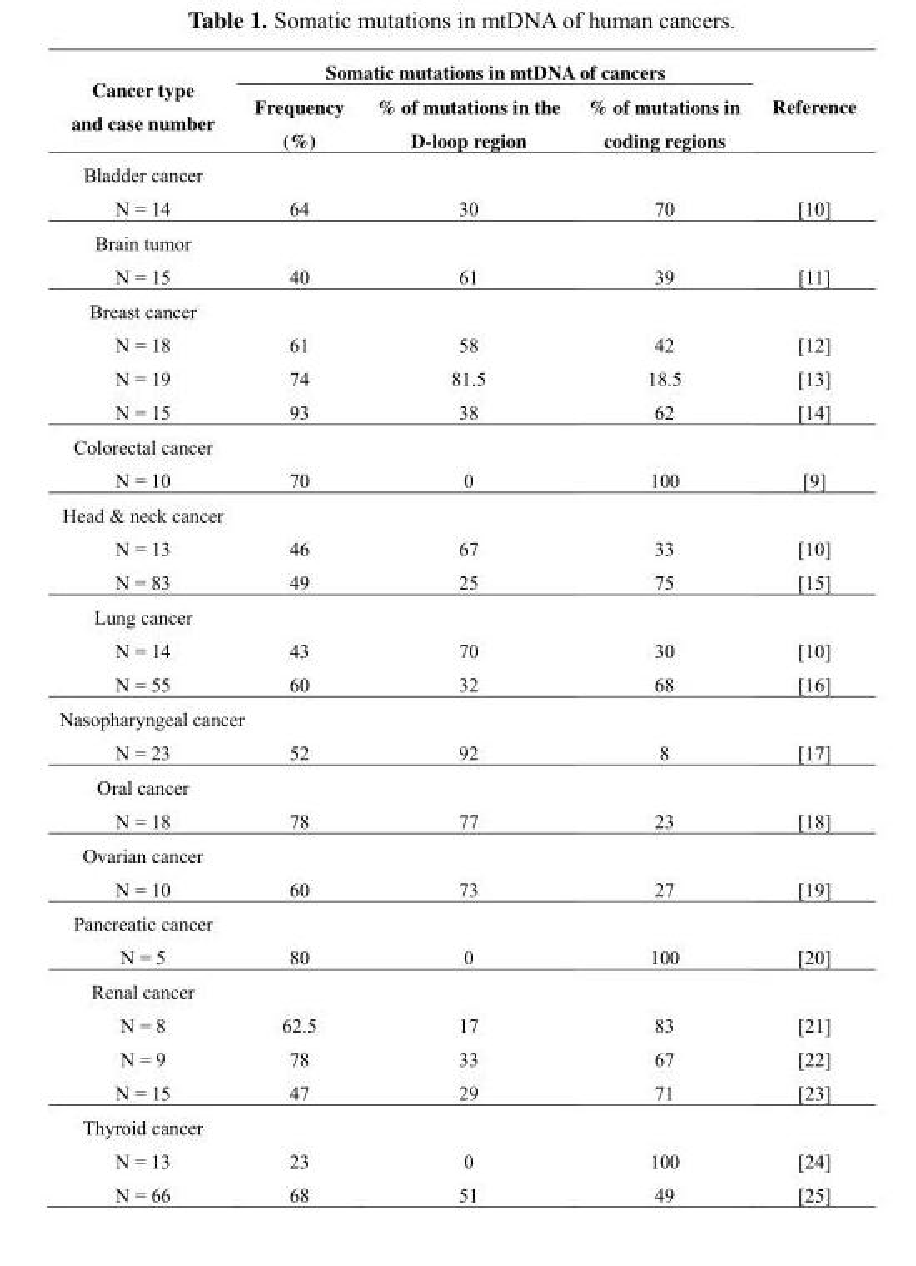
<table><thead><tr><td rowspan="2">Cancer type and case number</td><td colspan="3">Somatic mutations in mtDNA of cancers</td><td rowspan="2">Reference</td></tr><tr><td>Frequency (%)</td><td>% of mutations in the D-loop region</td><td>% of mutations in coding regions</td></tr></thead><tbody><tr><td colspan="5">Bladder cancer</td></tr><tr><td>N = 14</td><td>64</td><td>30</td><td>70</td><td>[10]</td></tr><tr><td colspan="5">Brain tumor</td></tr><tr><td>N = 15</td><td>40</td><td>61</td><td>39</td><td>[11]</td></tr><tr><td colspan="5">Breast cancer</td></tr><tr><td>N = 18</td><td>61</td><td>58</td><td>42</td><td>[12]</td></tr><tr><td>N = 19</td><td>74</td><td>81.5</td><td>18.5</td><td>[13]</td></tr><tr><td>N = 15</td><td>93</td><td>38</td><td>62</td><td>[14]</td></tr><tr><td colspan="5">Colorectal cancer</td></tr><tr><td>N = 10</td><td>70</td><td>0</td><td>100</td><td>[9]</td></tr><tr><td colspan="5">Head &amp; neck cancer</td></tr><tr><td>N = 13</td><td>46</td><td>67</td><td>33</td><td>[10]</td></tr><tr><td>N = 83</td><td>49</td><td>25</td><td>75</td><td>[15]</td></tr><tr><td colspan="5">Lung cancer</td></tr><tr><td>N = 14</td><td>43</td><td>70</td><td>30</td><td>[10]</td></tr><tr><td>N = 55</td><td>60</td><td>32</td><td>68</td><td>[16]</td></tr><tr><td colspan="5">Nasopharyngeal cancer</td></tr><tr><td>N = 23</td><td>52</td><td>92</td><td>8</td><td>[17]</td></tr><tr><td colspan="5">Oral cancer</td></tr><tr><td>N = 18</td><td>78</td><td>77</td><td>23</td><td>[18]</td></tr><tr><td colspan="5">Ovarian cancer</td></tr><tr><td>N = 10</td><td>60</td><td>73</td><td>27</td><td>[19]</td></tr><tr><td colspan="5">Pancreatic cancer</td></tr><tr><td>N = 5</td><td>80</td><td>0</td><td>100</td><td>[20]</td></tr><tr><td colspan="5">Renal cancer</td></tr><tr><td>N = 8</td><td>62.5</td><td>17</td><td>83</td><td>[21]</td></tr><tr><td>N = 9</td><td>78</td><td>33</td><td>67</td><td>[22]</td></tr><tr><td>N = 15</td><td>47</td><td>29</td><td>71</td><td>[23]</td></tr><tr><td colspan="5">Thyroid cancer</td></tr><tr><td>N = 13</td><td>23</td><td>0</td><td>100</td><td>[24]</td></tr><tr><td>N = 66</td><td>68</td><td>51</td><td>49</td><td>[25]</td></tr></tbody></table>